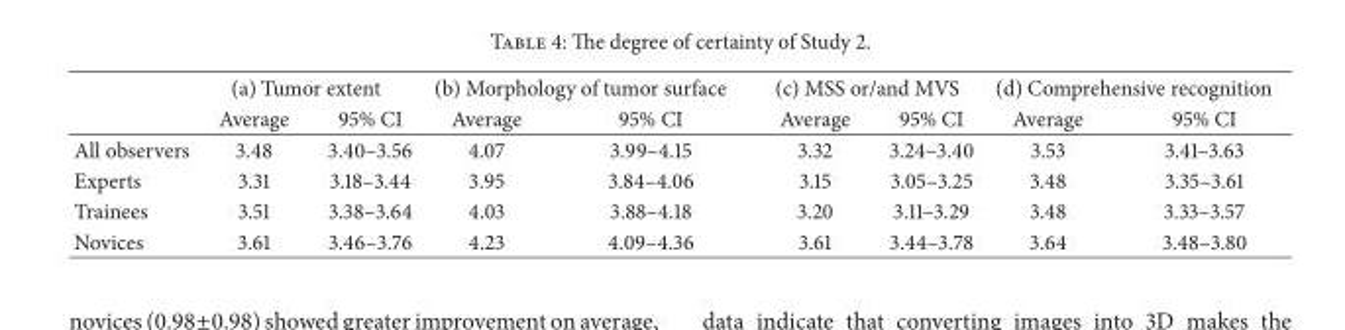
<table><thead><tr><td rowspan="2"></td><td colspan="2">(a) Tumor extent</td><td colspan="2">(b) Morphology of tumor surface</td><td colspan="2">(c) MSS or/and MVS</td><td colspan="2">(d) Comprehensive recognition</td></tr><tr><td>Average</td><td>95% CI</td><td>Average</td><td>95% CI</td><td>Average</td><td>95% CI</td><td>Average</td><td>95% CI</td></tr></thead><tbody><tr><td>All observers</td><td>3.48</td><td>3.40–3.56</td><td>4.07</td><td>3.99–4.15</td><td>3.32</td><td>3.24–3.40</td><td>3.53</td><td>3.41–3.63</td></tr><tr><td>Experts</td><td>3.31</td><td>3.18–3.44</td><td>3.95</td><td>3.84–4.06</td><td>3.15</td><td>3.05–3.25</td><td>3.48</td><td>3.35–3.61</td></tr><tr><td>Trainees</td><td>3.51</td><td>3.38–3.64</td><td>4.03</td><td>3.88–4.18</td><td>3.20</td><td>3.11–3.29</td><td>3.48</td><td>3.33–3.57</td></tr><tr><td>Novices</td><td>3.61</td><td>3.46–3.76</td><td>4.23</td><td>4.09–4.36</td><td>3.61</td><td>3.44–3.78</td><td>3.64</td><td>3.48–3.80</td></tr></tbody></table>